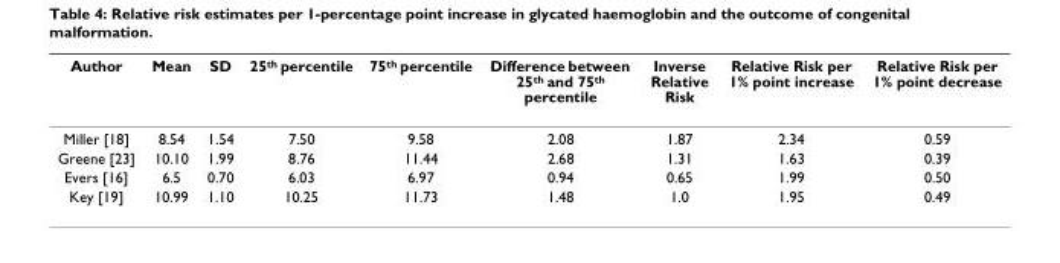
<table><thead><tr><td>Author</td><td>Mean</td><td>SD</td><td>25<sup>th</sup> percentile</td><td>75<sup>th</sup> percentile</td><td>Difference between 25<sup>th</sup> and 75<sup>th</sup> percentile</td><td>Inverse Relative Risk</td><td>Relative Risk per 1% point increase</td><td>Relative Risk per 1% point decrease</td></tr></thead><tbody><tr><td>Miller [18]</td><td>8.54</td><td>1.54</td><td>7.50</td><td>9.58</td><td>2.08</td><td>1.87</td><td>2.34</td><td>0.59</td></tr><tr><td>Greene [23]</td><td>10.10</td><td>1.99</td><td>8.76</td><td>11.44</td><td>2.68</td><td>1.31</td><td>1.63</td><td>0.39</td></tr><tr><td>Evers [16]</td><td>6.5</td><td>0.70</td><td>6.03</td><td>6.97</td><td>0.94</td><td>0.65</td><td>1.99</td><td>0.50</td></tr><tr><td>Key [19]</td><td>10.99</td><td>1.10</td><td>10.25</td><td>11.73</td><td>1.48</td><td>1.0</td><td>1.95</td><td>0.49</td></tr></tbody></table>